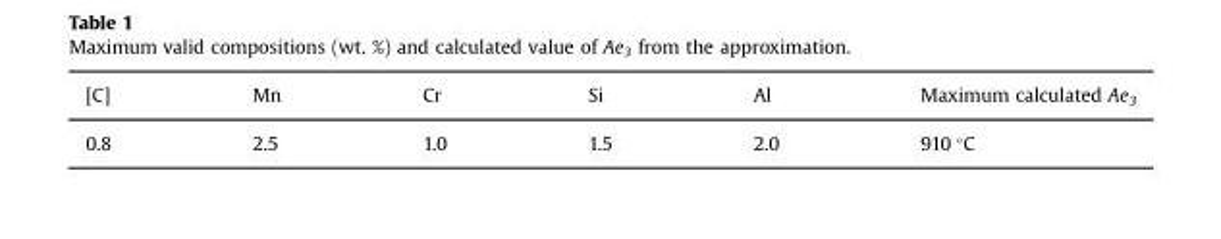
<table><thead><tr><td>[C]</td><td>Mn</td><td>Cr</td><td>Si</td><td>Al</td><td>Maximum calculated Ae<sub>3</sub></td></tr></thead><tbody><tr><td>0.8</td><td>2.5</td><td>1.0</td><td>1.5</td><td>2.0</td><td>910 °C</td></tr></tbody></table>